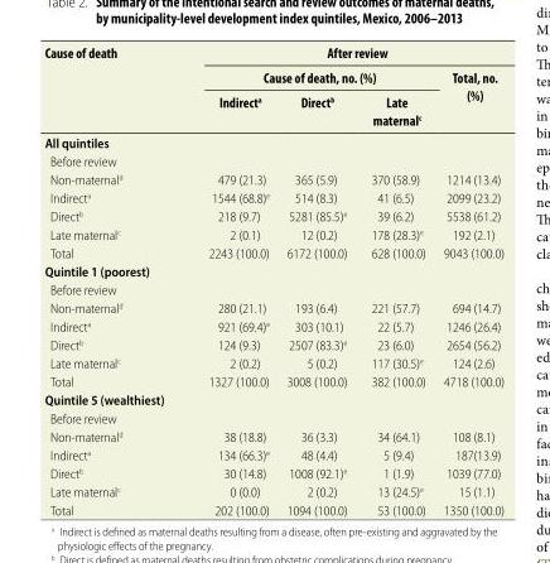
<table><thead><tr><td rowspan="3">Cause of death</td><td colspan="4">After review</td></tr><tr><td colspan="3">Cause of death, no. (%)</td><td rowspan="2">Total, no. (%)</td></tr><tr><td>Indirect<sup>a</sup></td><td>Direct<sup>b</sup></td><td>Late maternal<sup>c</sup></td></tr></thead><tbody><tr><td colspan="5">All quintiles</td></tr><tr><td colspan="5">Before review</td></tr><tr><td>Non-maternal<sup>d</sup></td><td>479 (21.3)</td><td>365 (5.9)</td><td>370 (58.9)</td><td>1214 (13.4)</td></tr><tr><td>Indirect<sup>a</sup></td><td>1544 (68.8)<sup>e</sup></td><td>514 (8.3)</td><td>41 (6.5)</td><td>2099 (23.2)</td></tr><tr><td>Direct<sup>b</sup></td><td>218 (9.7)</td><td>5281 (85.5)<sup>e</sup></td><td>39 (6.2)</td><td>5538 (61.2)</td></tr><tr><td>Late maternal<sup>c</sup></td><td>2 (0.1)</td><td>12 (0.2)</td><td>178 (28.3)<sup>e</sup></td><td>192 (2.1)</td></tr><tr><td>Total</td><td>2243 (100.0)</td><td>6172 (100.0)</td><td>628 (100.0)</td><td>9043 (100.0)</td></tr><tr><td colspan="5">Quintile 1 (poorest)</td></tr><tr><td colspan="5">Before review</td></tr><tr><td>Non-maternal<sup>d</sup></td><td>280 (21.1)</td><td>193 (6.4)</td><td>221 (57.7)</td><td>694 (14.7)</td></tr><tr><td>Indirect<sup>a</sup></td><td>921 (69.4)<sup>e</sup></td><td>303 (10.1)</td><td>22 (5.7)</td><td>1246 (26.4)</td></tr><tr><td>Direct<sup>b</sup></td><td>124 (9.3)</td><td>2507 (83.3)<sup>e</sup></td><td>23 (6.0)</td><td>2654 (56.2)</td></tr><tr><td>Late maternal<sup>c</sup></td><td>2 (0.2)</td><td>5 (0.2)</td><td>117 (30.5)<sup>e</sup></td><td>124 (2.6)</td></tr><tr><td>Total</td><td>1327 (100.0)</td><td>3008 (100.0)</td><td>382 (100.0)</td><td>4718 (100.0)</td></tr><tr><td colspan="5">Quintile 5 (wealthiest)</td></tr><tr><td colspan="5">Before review</td></tr><tr><td>Non-maternal<sup>d</sup></td><td>38 (18.8)</td><td>36 (3.3)</td><td>34 (64.1)</td><td>108 (8.1)</td></tr><tr><td>Indirect<sup>a</sup></td><td>134 (66.3)<sup>e</sup></td><td>48 (4.4)</td><td>5 (9.4)</td><td>187(13.9)</td></tr><tr><td>Direct<sup>b</sup></td><td>30 (14.8)</td><td>1008 (92.1)<sup>e</sup></td><td>1 (1.9)</td><td>1039 (77.0)</td></tr><tr><td>Late maternal<sup>c</sup></td><td>0 (0.0)</td><td>2 (0.2)</td><td>13 (24.5)<sup>e</sup></td><td>15 (1.1)</td></tr><tr><td>Total</td><td>202 (100.0)</td><td>1094 (100.0)</td><td>53 (100.0)</td><td>1350 (100.0)</td></tr></tbody></table>